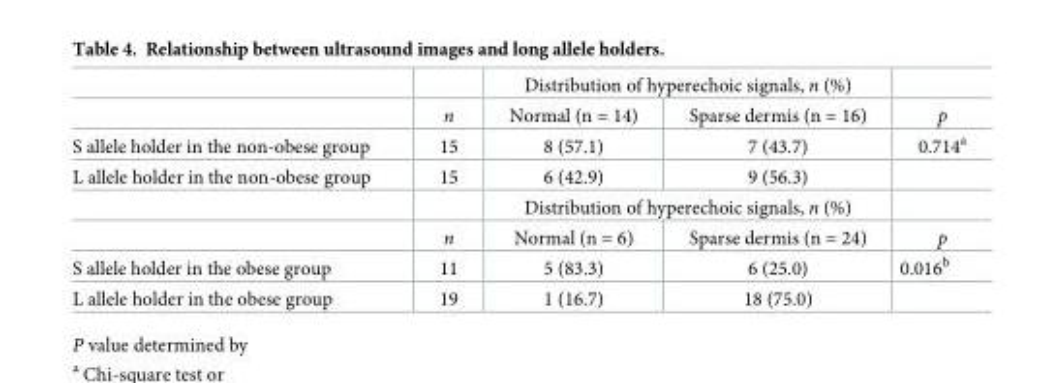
<table><thead><tr><td rowspan="2"></td><td rowspan="2">n</td><td colspan="2">Distribution of hyperechoic signals, n (%)</td><td rowspan="2">p</td></tr><tr><td>Normal (n = 14)</td><td>Sparse dermis (n = 16)</td></tr></thead><tbody><tr><td>S allele holder in the non-obese group</td><td>15</td><td>8 (57.1)</td><td>7 (43.7)</td><td>0.714<sup>a</sup></td></tr><tr><td rowspan="3">L allele holder in the non-obese group</td><td>15</td><td>6 (42.9)</td><td>9 (56.3)</td><td></td></tr><tr><td></td><td colspan="2">Distribution of hyperechoic signals, n (%)</td><td></td></tr><tr><td>n</td><td>Normal (n = 6)</td><td>Sparse dermis (n = 24)</td><td>p</td></tr><tr><td>S allele holder in the obese group</td><td>11</td><td>5 (83.3)</td><td>6 (25.0)</td><td>0.016<sup>b</sup></td></tr><tr><td>L allele holder in the obese group</td><td>19</td><td>1 (16.7)</td><td>18 (75.0)</td><td></td></tr></tbody></table>